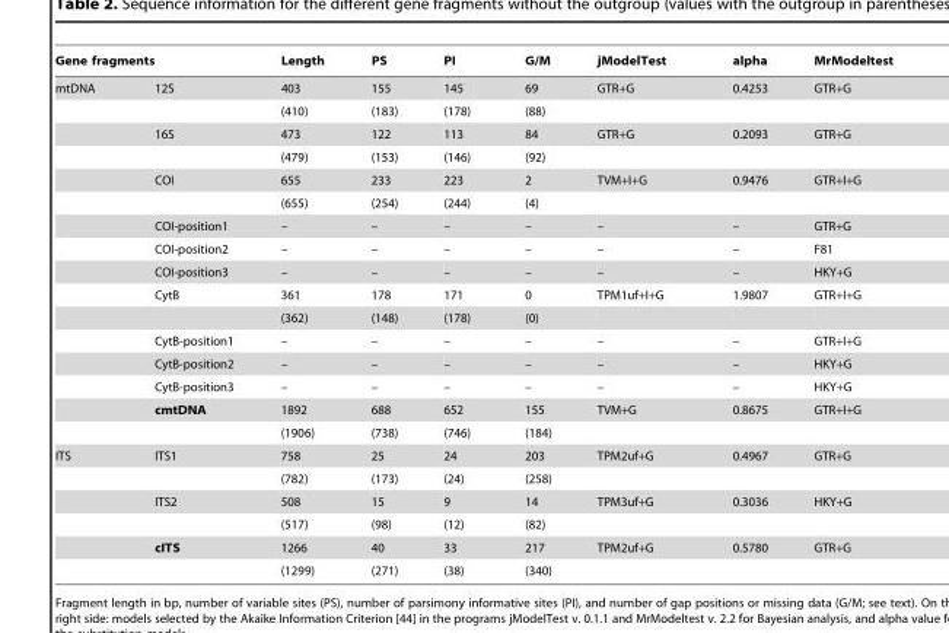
<table><thead><tr><td colspan="2">Gene fragments</td><td rowspan="2">Length 403</td><td rowspan="2">PS 155</td><td rowspan="2">PI 145</td><td rowspan="2">G/M 69</td><td rowspan="2">jModelTest GTR+G</td><td rowspan="2">alpha 0.4253</td><td rowspan="2">MrModeltest GTR+G</td></tr><tr><td>mtDNA</td><td>12S</td></tr></thead><tbody><tr><td></td><td></td><td>(410)</td><td>(183)</td><td>(178)</td><td>(88)</td><td></td><td></td><td></td></tr><tr><td></td><td>16S</td><td>473</td><td>122</td><td>113</td><td>84</td><td>GTR+G</td><td>0.2093</td><td>GTR+G</td></tr><tr><td></td><td></td><td>(479)</td><td>(153)</td><td>(146)</td><td>(92)</td><td></td><td></td><td></td></tr><tr><td></td><td>COI</td><td>655</td><td>233</td><td>223</td><td>2</td><td>TVM+I+G</td><td>0.9476</td><td>GTR+I+G</td></tr><tr><td></td><td></td><td>(655)</td><td>(254)</td><td>(244)</td><td>(4)</td><td></td><td></td><td></td></tr><tr><td></td><td>COI-position1</td><td>–</td><td>–</td><td>–</td><td>–</td><td>–</td><td>–</td><td>GTR+G</td></tr><tr><td></td><td>COI-position2</td><td>–</td><td>–</td><td>–</td><td>–</td><td>–</td><td>–</td><td>F81</td></tr><tr><td></td><td>COI-position3</td><td>–</td><td>–</td><td>–</td><td>–</td><td>–</td><td>–</td><td>HKY+G</td></tr><tr><td></td><td>CytB</td><td>361</td><td>178</td><td>171</td><td>0</td><td>TPM1uf+I+G</td><td>1.9807</td><td>GTR+I+G</td></tr><tr><td></td><td></td><td>(362)</td><td>(148)</td><td>(178)</td><td>(0)</td><td></td><td></td><td></td></tr><tr><td></td><td>CytB-position1</td><td>–</td><td>–</td><td>–</td><td>–</td><td>–</td><td>–</td><td>GTR+I+G</td></tr><tr><td></td><td>CytB-position2</td><td>–</td><td>–</td><td>–</td><td>–</td><td>–</td><td>–</td><td>HKY+G</td></tr><tr><td></td><td>CytB-position3</td><td>–</td><td>–</td><td>–</td><td>–</td><td>–</td><td>–</td><td>HKY+G</td></tr><tr><td></td><td>cmtDNA</td><td>1892</td><td>688</td><td>652</td><td>155</td><td>TVM+G</td><td>0.8675</td><td>GTR+I+G</td></tr><tr><td></td><td></td><td>(1906)</td><td>(738)</td><td>(746)</td><td>(184)</td><td></td><td></td><td></td></tr><tr><td rowspan="6">ITS</td><td>ITS1</td><td>758</td><td>25</td><td>24</td><td>203</td><td>TPM2uf+G</td><td>0.4967</td><td>GTR+G</td></tr><tr><td></td><td>(782)</td><td>(173)</td><td>(24)</td><td>(258)</td><td></td><td></td><td></td></tr><tr><td>ITS2</td><td>508</td><td>15</td><td>9</td><td>14</td><td>TPM3uf+G</td><td>0.3036</td><td>HKY+G</td></tr><tr><td></td><td>(517)</td><td>(98)</td><td>(12)</td><td>(82)</td><td></td><td></td><td></td></tr><tr><td>cITS</td><td>1266</td><td>40</td><td>33</td><td>217</td><td>TPM2uf+G</td><td>0.5780</td><td>GTR+G</td></tr><tr><td></td><td>(1299)</td><td>(271)</td><td>(38)</td><td>(340)</td><td></td><td></td><td></td></tr></tbody></table>